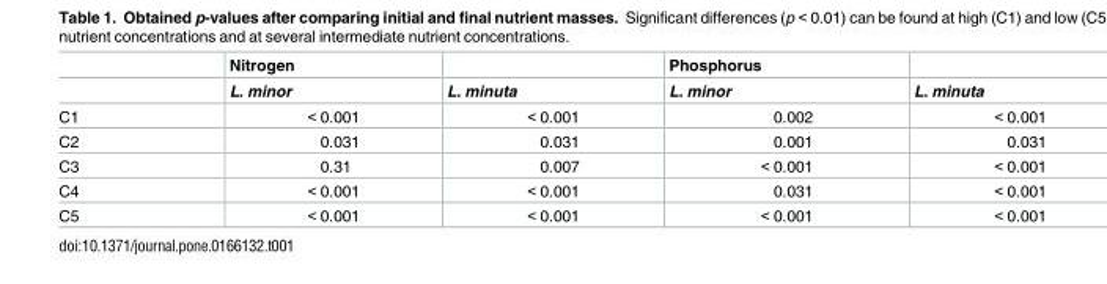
<table><thead><tr><td rowspan="2"></td><td rowspan="2">Nitrogen L. minor</td><td rowspan="2">L. minuta</td><td rowspan="2">Phosphorus L. minor</td><td rowspan="2">L. minuta</td></tr><tr></tr></thead><tbody><tr><td>C1</td><td>&lt; 0.001</td><td>&lt; 0.001</td><td>0.002</td><td>&lt; 0.001</td></tr><tr><td>C2</td><td>0.031</td><td>0.031</td><td>0.001</td><td>0.031</td></tr><tr><td>C3</td><td>0.31</td><td>0.007</td><td>&lt; 0.001</td><td>&lt; 0.001</td></tr><tr><td>C4</td><td>&lt; 0.001</td><td>&lt; 0.001</td><td>0.031</td><td>&lt; 0.001</td></tr><tr><td>C5</td><td>&lt; 0.001</td><td>&lt; 0.001</td><td>&lt; 0.001</td><td>&lt; 0.001</td></tr></tbody></table>